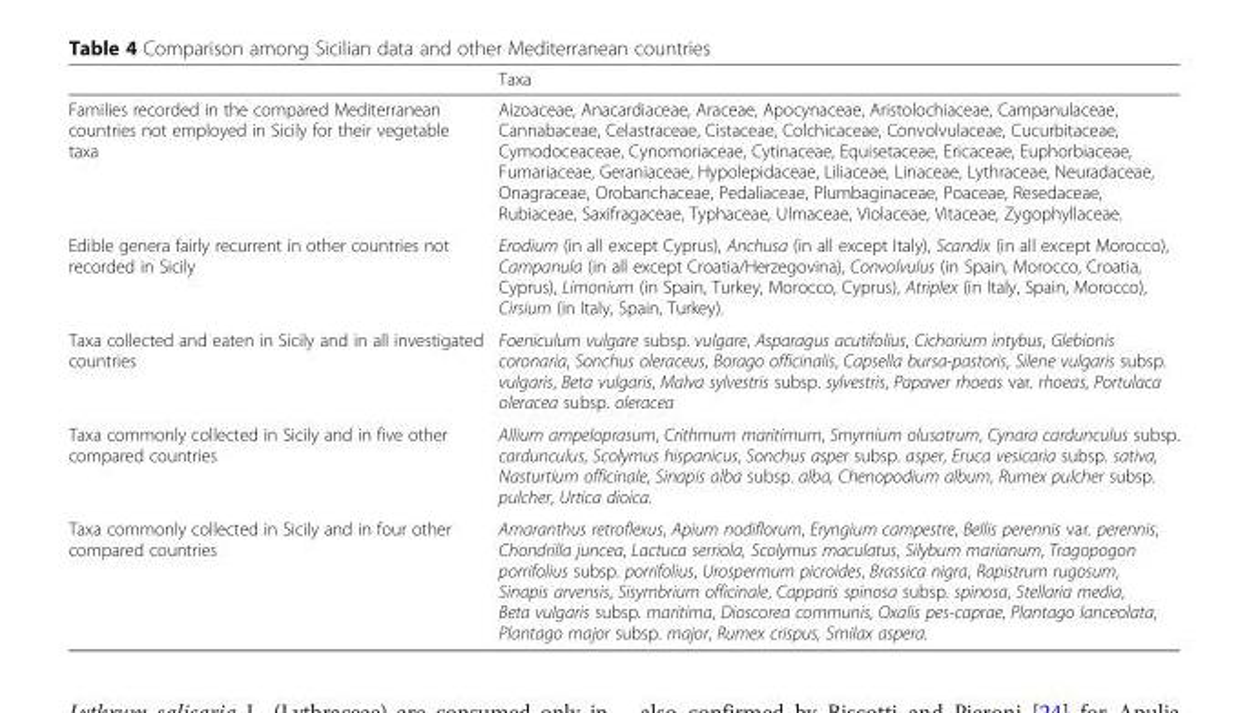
<table><thead><tr><td></td><td>Taxa</td></tr></thead><tbody><tr><td>Families recorded in the compared Mediterranean countries not employed in Sicily for their vegetable taxa</td><td>Aizoaceae, Anacardiaceae, Araceae, Apocynaceae, Aristolochiaceae, Campanulaceae, Cannabaceae, Celastraceae, Cistaceae, Colchicaceae, Convolvulaceae, Cucurbitaceae, Cymodoceaceae, Cynomoriaceae, Cytinaceae, Equisetaceae, Ericaceae, Euphorbiaceae, Fumariaceae, Geraniaceae, Hypolepidaceae, Liliaceae, Linaceae, Lythraceae, Neuradaceae, Onagraceae, Orobanchaceae, Pedaliaceae, Plumbaginaceae, Poaceae, Resedaceae, Rubiaceae, Saxifragaceae, Typhaceae, Ulmaceae, Violaceae, Vitaceae, Zygophyllaceae.</td></tr><tr><td>Edible genera fairly recurrent in other countries not recorded in Sicily</td><td>Erodium (in all except Cyprus), Anchusa (in all except Italy), Scandix (in all except Morocco), Campanula (in all except Croatia/Herzegovina), Convolvulus (in Spain, Morocco, Croatia, Cyprus), Limonium (in Spain, Turkey, Morocco, Cyprus), Atriplex (in Italy, Spain, Morocco), Cirsium (in Italy, Spain, Turkey).</td></tr><tr><td>Taxa collected and eaten in Sicily and in all investigated countries</td><td>Foeniculum vulgare subsp. vulgare, Asparagus acutifolius, Cichorium intybus, Glebionis coronaria, Sonchus oleraceus, Borago officinalis, Capsella bursa-pastoris, Silene vulgaris subsp. vulgaris, Beta vulgaris, Malva sylvestris subsp. sylvestris, Papaver rhoeas var. rhoeas, Portulaca oleracea subsp. oleracea</td></tr><tr><td>Taxa commonly collected in Sicily and in five other compared countries</td><td>Allium ampeloprasum, Crithmum maritimum, Smyrnium olusatrum, Cynara cardunculus subsp. cardunculus, Scolymus hispanicus, Sonchus asper subsp. asper, Eruca vesicaria subsp. sativa, Nasturtium officinale, Sinapis alba subsp. alba, Chenopodium album, Rumex pulcher subsp. pulcher, Urtica dioica.</td></tr><tr><td>Taxa commonly collected in Sicily and in four other compared countries</td><td>Amaranthus retroflexus, Apium nodiflorum, Eryngium campestre, Bellis perennis var. perennis, Chondrilla juncea, Lactuca serriola, Scolymus maculatus, Silybum marianum, Tragopogon porrifolius subsp. porrifolius, Urospermum picroides, Brassica nigra, Rapistrum rugosum, Sinapis arvensis, Sisymbrium officinale, Capparis spinosa subsp. spinosa, Stellaria media, Beta vulgaris subsp. maritima, Dioscorea communis, Oxalis pes-caprae, Plantago lanceolata, Plantago major subsp. major, Rumex crispus, Smilax aspera.</td></tr></tbody></table>